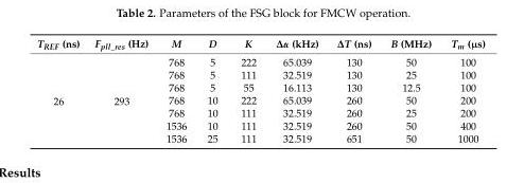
<table><thead><tr><td>T<sub>REF</sub> (ns)</td><td>F<sub>pll_res</sub> (Hz)</td><td>M</td><td>D</td><td>K</td><td>∆α (kHz)</td><td>∆T (ns)</td><td>B (MHz)</td><td>T<sub>m</sub> (µs)</td></tr></thead><tbody><tr><td rowspan="7">26</td><td rowspan="7">293</td><td>768</td><td>5</td><td>222</td><td>65.039</td><td>130</td><td>50</td><td>100</td></tr><tr><td>768</td><td>5</td><td>111</td><td>32.519</td><td>130</td><td>25</td><td>100</td></tr><tr><td>768</td><td>5</td><td>55</td><td>16.113</td><td>130</td><td>12.5</td><td>100</td></tr><tr><td>768</td><td>10</td><td>222</td><td>65.039</td><td>260</td><td>50</td><td>200</td></tr><tr><td>768</td><td>10</td><td>111</td><td>32.519</td><td>260</td><td>25</td><td>200</td></tr><tr><td>1536</td><td>10</td><td>111</td><td>32.519</td><td>260</td><td>50</td><td>400</td></tr><tr><td>1536</td><td>25</td><td>111</td><td>32.519</td><td>651</td><td>50</td><td>1000</td></tr></tbody></table>